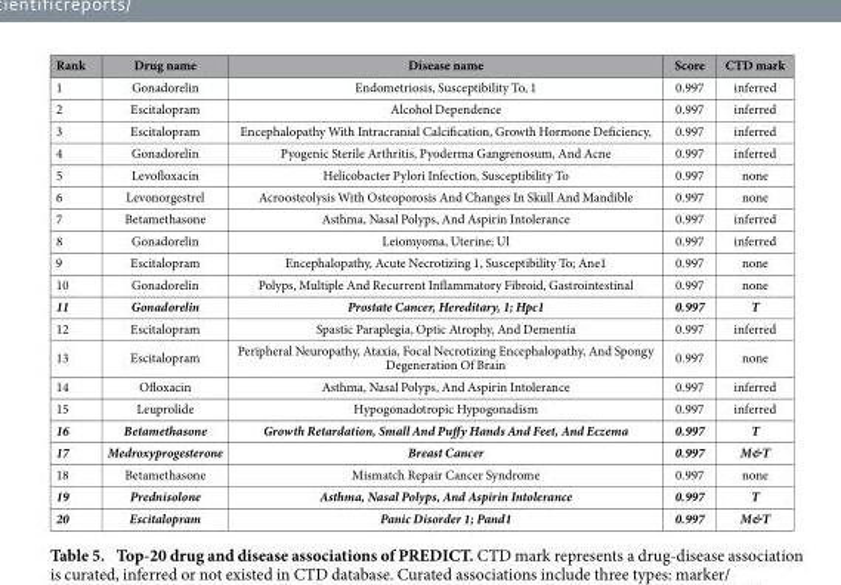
<table><thead><tr><td>Rank</td><td>Drug name</td><td>Disease name</td><td>Score</td><td>CTD mark</td></tr></thead><tbody><tr><td>1</td><td>Gonadorelin</td><td>Endometriosis, Susceptibility To, 1</td><td>0.997</td><td>inferred</td></tr><tr><td>2</td><td>Escitalopram</td><td>Alcohol Dependence</td><td>0.997</td><td>inferred</td></tr><tr><td>3</td><td>Escitalopram</td><td>Encephalopathy With Intracranial Calcification, Growth Hormone Deficiency,</td><td>0.997</td><td>inferred</td></tr><tr><td>4</td><td>Gonadorelin</td><td>Pyogenic Sterile Arthritis, Pyoderma Gangrenosum, And Acne</td><td>0.997</td><td>inferred</td></tr><tr><td>5</td><td>Levofloxacin</td><td>Helicobacter Pylori Infection, Susceptibility To</td><td>0.997</td><td>none</td></tr><tr><td>6</td><td>Levonorgestrel</td><td>Acroosteolysis With Osteoporosis And Changes In Skull And Mandible</td><td>0.997</td><td>none</td></tr><tr><td>7</td><td>Betamethasone</td><td>Asthma, Nasal Polyps, And Aspirin Intolerance</td><td>0.997</td><td>inferred</td></tr><tr><td>8</td><td>Gonadorelin</td><td>Leiomyoma, Uterine; Ul</td><td>0.997</td><td>inferred</td></tr><tr><td>9</td><td>Escitalopram</td><td>Encephalopathy, Acute Necrotizing 1, Susceptibility To; Ane1</td><td>0.997</td><td>none</td></tr><tr><td>10</td><td>Gonadorelin</td><td>Polyps, Multiple And Recurrent Inflammatory Fibroid, Gastrointestinal</td><td>0.997</td><td>none</td></tr><tr><td>11</td><td>Gonadorelin</td><td>Prostate Cancer, Hereditary, 1; Hpc1</td><td>0.997</td><td>T</td></tr><tr><td>12</td><td>Escitalopram</td><td>Spastic Paraplegia, Optic Atrophy, And Dementia</td><td>0.997</td><td>inferred</td></tr><tr><td>13</td><td>Escitalopram</td><td>Peripheral Neuropathy, Ataxia, Focal Necrotizing Encephalopathy, And Spongy Degeneration Of Brain</td><td>0.997</td><td>none</td></tr><tr><td>14</td><td>Ofloxacin</td><td>Asthma, Nasal Polyps, And Aspirin Intolerance</td><td>0.997</td><td>inferred</td></tr><tr><td>15</td><td>Leuprolide</td><td>Hypogonadotropic Hypogonadism</td><td>0.997</td><td>inferred</td></tr><tr><td>16</td><td>Betamethasone</td><td>Growth Retardation, Small And Puffy Hands And Feet, And Eczema</td><td>0.997</td><td>T</td></tr><tr><td>17</td><td>Medroxyprogesterone</td><td>Breast Cancer</td><td>0.997</td><td>M&amp;T</td></tr><tr><td>18</td><td>Betamethasone</td><td>Mismatch Repair Cancer Syndrome</td><td>0.997</td><td>none</td></tr><tr><td>19</td><td>Prednisolone</td><td>Asthma, Nasal Polyps, And Aspirin Intolerance</td><td>0.997</td><td>T</td></tr><tr><td>20</td><td>Escitalopram</td><td>Panic Disorder 1; Pand1</td><td>0.997</td><td>M&amp;T</td></tr></tbody></table>